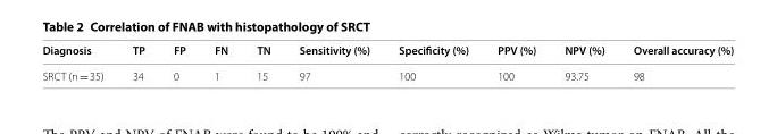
<table><thead><tr><td>Diagnosis</td><td>TP</td><td>FP</td><td>FN</td><td>TN</td><td>Sensitivity (%)</td><td>Specificity (%)</td><td>PPV (%)</td><td>NPV (%)</td><td>Overall accuracy (%)</td></tr></thead><tbody><tr><td>SRCT (n = 35)</td><td>34</td><td>0</td><td>1</td><td>15</td><td>97</td><td>100</td><td>100</td><td>93.75</td><td>98</td></tr></tbody></table>